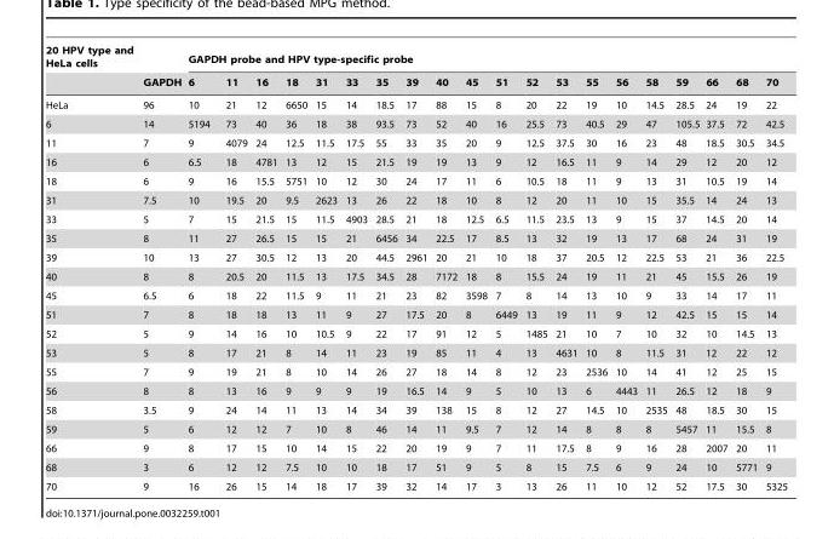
<table><thead><tr><td rowspan="2">20 HPV type and HeLa cells</td><td rowspan="2">GAPDH</td><td colspan="20">GAPDH probe and HPV type-specific probe</td></tr><tr><td>6</td><td>11</td><td>16</td><td>18</td><td>31</td><td>33</td><td>35</td><td>39</td><td>40</td><td>45</td><td>51</td><td>52</td><td>53</td><td>55</td><td>56</td><td>58</td><td>59</td><td>66</td><td>68</td><td>70</td></tr></thead><tbody><tr><td>HeLa</td><td>96</td><td>10</td><td>21</td><td>12</td><td>6650</td><td>15</td><td>14</td><td>18.5</td><td>17</td><td>88</td><td>15</td><td>8</td><td>20</td><td>22</td><td>19</td><td>10</td><td>14.5</td><td>28.5</td><td>24</td><td>19</td><td>22</td></tr><tr><td>6</td><td>14</td><td>5194</td><td>73</td><td>40</td><td>36</td><td>18</td><td>38</td><td>93.5</td><td>73</td><td>52</td><td>40</td><td>16</td><td>25.5</td><td>73</td><td>40.5</td><td>29</td><td>47</td><td>105.5</td><td>37.5</td><td>72</td><td>42.5</td></tr><tr><td>11</td><td>7</td><td>9</td><td>4079</td><td>24</td><td>12.5</td><td>11.5</td><td>17.5</td><td>55</td><td>33</td><td>35</td><td>20</td><td>9</td><td>12.5</td><td>37.5</td><td>30</td><td>16</td><td>23</td><td>48</td><td>18.5</td><td>30.5</td><td>34.5</td></tr><tr><td>16</td><td>6</td><td>6.5</td><td>18</td><td>4781</td><td>13</td><td>12</td><td>15</td><td>21.5</td><td>19</td><td>19</td><td>13</td><td>9</td><td>12</td><td>16.5</td><td>11</td><td>9</td><td>14</td><td>29</td><td>12</td><td>20</td><td>12</td></tr><tr><td>18</td><td>6</td><td>9</td><td>16</td><td>15.5</td><td>5751</td><td>10</td><td>12</td><td>30</td><td>24</td><td>17</td><td>11</td><td>6</td><td>10.5</td><td>18</td><td>11</td><td>9</td><td>13</td><td>31</td><td>10.5</td><td>19</td><td>14</td></tr><tr><td>31</td><td>7.5</td><td>10</td><td>19.5</td><td>20</td><td>9.5</td><td>2623</td><td>13</td><td>26</td><td>22</td><td>18</td><td>10</td><td>8</td><td>12</td><td>20</td><td>11</td><td>10</td><td>15</td><td>35.5</td><td>14</td><td>24</td><td>13</td></tr><tr><td>33</td><td>5</td><td>7</td><td>15</td><td>21.5</td><td>15</td><td>11.5</td><td>4903</td><td>28.5</td><td>21</td><td>18</td><td>12.5</td><td>6.5</td><td>11.5</td><td>23.5</td><td>13</td><td>9</td><td>15</td><td>37</td><td>14.5</td><td>20</td><td>14</td></tr><tr><td>35</td><td>8</td><td>11</td><td>27</td><td>26.5</td><td>15</td><td>15</td><td>21</td><td>6456</td><td>34</td><td>22.5</td><td>17</td><td>8.5</td><td>13</td><td>32</td><td>19</td><td>13</td><td>17</td><td>68</td><td>24</td><td>31</td><td>19</td></tr><tr><td>39</td><td>10</td><td>13</td><td>27</td><td>30.5</td><td>12</td><td>13</td><td>20</td><td>44.5</td><td>2961</td><td>20</td><td>21</td><td>10</td><td>18</td><td>37</td><td>20.5</td><td>12</td><td>22.5</td><td>53</td><td>21</td><td>36</td><td>22.5</td></tr><tr><td>40</td><td>8</td><td>8</td><td>20.5</td><td>20</td><td>11.5</td><td>13</td><td>17.5</td><td>34.5</td><td>28</td><td>7172</td><td>18</td><td>8</td><td>15.5</td><td>24</td><td>19</td><td>11</td><td>21</td><td>45</td><td>15.5</td><td>26</td><td>19</td></tr><tr><td>45</td><td>6.5</td><td>6</td><td>18</td><td>22</td><td>11.5</td><td>9</td><td>11</td><td>21</td><td>23</td><td>82</td><td>3598</td><td>7</td><td>8</td><td>14</td><td>13</td><td>10</td><td>9</td><td>33</td><td>14</td><td>17</td><td>11</td></tr><tr><td>51</td><td>7</td><td>8</td><td>18</td><td>18</td><td>13</td><td>11</td><td>9</td><td>27</td><td>17.5</td><td>20</td><td>8</td><td>6449</td><td>13</td><td>19</td><td>11</td><td>9</td><td>12</td><td>42.5</td><td>15</td><td>15</td><td>14</td></tr><tr><td>52</td><td>5</td><td>9</td><td>14</td><td>16</td><td>10</td><td>10.5</td><td>9</td><td>22</td><td>17</td><td>91</td><td>12</td><td>5</td><td>1485</td><td>21</td><td>10</td><td>7</td><td>10</td><td>32</td><td>10</td><td>14.5</td><td>13</td></tr><tr><td>53</td><td>5</td><td>8</td><td>17</td><td>21</td><td>8</td><td>14</td><td>11</td><td>23</td><td>19</td><td>85</td><td>11</td><td>4</td><td>13</td><td>4631</td><td>10</td><td>8</td><td>11.5</td><td>31</td><td>12</td><td>22</td><td>12</td></tr><tr><td>55</td><td>7</td><td>9</td><td>19</td><td>21</td><td>8</td><td>10</td><td>14</td><td>26</td><td>27</td><td>18</td><td>14</td><td>8</td><td>12</td><td>23</td><td>2536</td><td>10</td><td>14</td><td>41</td><td>12</td><td>25</td><td>15</td></tr><tr><td>56</td><td>8</td><td>8</td><td>13</td><td>16</td><td>9</td><td>9</td><td>9</td><td>19</td><td>16.5</td><td>14</td><td>9</td><td>5</td><td>10</td><td>13</td><td>6</td><td>4443</td><td>11</td><td>26.5</td><td>12</td><td>18</td><td>9</td></tr><tr><td>58</td><td>3.5</td><td>9</td><td>24</td><td>14</td><td>11</td><td>13</td><td>14</td><td>34</td><td>39</td><td>138</td><td>15</td><td>8</td><td>12</td><td>27</td><td>14.5</td><td>10</td><td>2535</td><td>48</td><td>18.5</td><td>30</td><td>15</td></tr><tr><td>59</td><td>5</td><td>6</td><td>12</td><td>12</td><td>7</td><td>10</td><td>8</td><td>46</td><td>14</td><td>11</td><td>9.5</td><td>7</td><td>12</td><td>14</td><td>8</td><td>8</td><td>8</td><td>5457</td><td>11</td><td>15.5</td><td>8</td></tr><tr><td>66</td><td>9</td><td>8</td><td>17</td><td>15</td><td>10</td><td>14</td><td>15</td><td>22</td><td>20</td><td>19</td><td>9</td><td>7</td><td>11</td><td>17.5</td><td>8</td><td>9</td><td>16</td><td>28</td><td>2007</td><td>20</td><td>11</td></tr><tr><td>68</td><td>3</td><td>6</td><td>12</td><td>12</td><td>7.5</td><td>10</td><td>10</td><td>18</td><td>17</td><td>51</td><td>9</td><td>5</td><td>8</td><td>15</td><td>7.5</td><td>6</td><td>9</td><td>24</td><td>10</td><td>5771</td><td>9</td></tr><tr><td>70</td><td>9</td><td>16</td><td>26</td><td>15</td><td>14</td><td>18</td><td>17</td><td>39</td><td>32</td><td>14</td><td>17</td><td>3</td><td>13</td><td>26</td><td>11</td><td>10</td><td>12</td><td>52</td><td>17.5</td><td>30</td><td>5325</td></tr></tbody></table>